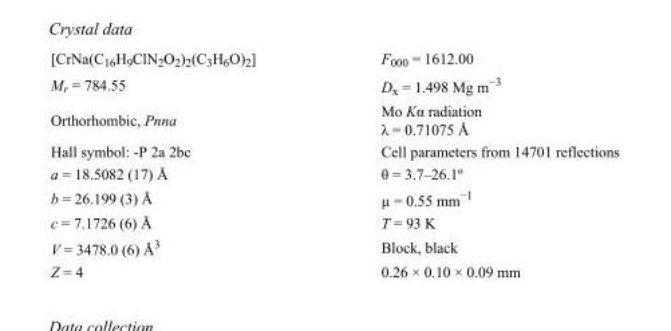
<table><tbody><tr><td>[CrNa(C<sub>16</sub>H<sub>9</sub>ClN<sub>2</sub>O<sub>2</sub>)<sub>2</sub>(C<sub>3</sub>H<sub>6</sub>O)<sub>2</sub>]</td><td>F<sub>000</sub> = 1612.00</td></tr><tr><td>M<sub>r</sub> = 784.55</td><td>D<sub>x</sub> = 1.498 Mg m<sup>−3</sup></td></tr><tr><td>Orthorhombic, Pnna</td><td>Mo Kα radiation λ = 0.71075 Å</td></tr><tr><td>Hall symbol: -P 2a 2bc</td><td>Cell parameters from 14701 reflections</td></tr><tr><td>a = 18.5082 (17) Å</td><td>θ = 3.7–26.1º</td></tr><tr><td>b = 26.199 (3) Å</td><td>µ = 0.55 mm<sup>−1</sup></td></tr><tr><td>c = 7.1726 (6) Å</td><td>T = 93 K</td></tr><tr><td>V = 3478.0 (6) Å<sup>3</sup></td><td>Block, black</td></tr><tr><td>Z = 4</td><td>0.26 × 0.10 × 0.09 mm</td></tr></tbody></table>